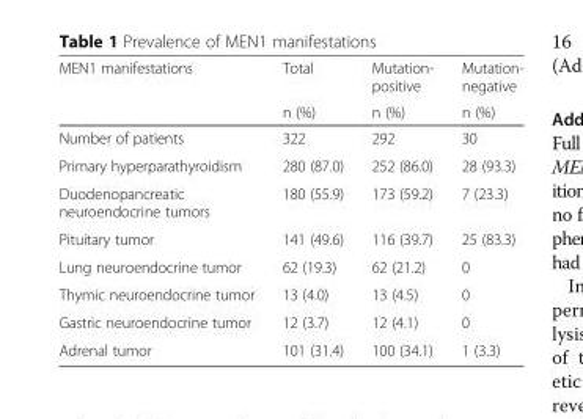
<table><thead><tr><td rowspan="2">MEN1 manifestations</td><td rowspan="2">Total n (%)</td><td rowspan="2">Mutation- positive n (%)</td><td rowspan="2">Mutation- negative n (%)</td></tr><tr></tr></thead><tbody><tr><td>Number of patients</td><td>322</td><td>292</td><td>30</td></tr><tr><td>Primary hyperparathyroidism</td><td>280 (87.0)</td><td>252 (86.0)</td><td>28 (93.3)</td></tr><tr><td>Duodenopancreatic neuroendocrine tumors</td><td>180 (55.9)</td><td>173 (59.2)</td><td>7 (23.3)</td></tr><tr><td>Pituitary tumor</td><td>141 (49.6)</td><td>116 (39.7)</td><td>25 (83.3)</td></tr><tr><td>Lung neuroendocrine tumor</td><td>62 (19.3)</td><td>62 (21.2)</td><td>0</td></tr><tr><td>Thymic neuroendocrine tumor</td><td>13 (4.0)</td><td>13 (4.5)</td><td>0</td></tr><tr><td>Gastric neuroendocrine tumor</td><td>12 (3.7)</td><td>12 (4.1)</td><td>0</td></tr><tr><td>Adrenal tumor</td><td>101 (31.4)</td><td>100 (34.1)</td><td>1 (3.3)</td></tr></tbody></table>